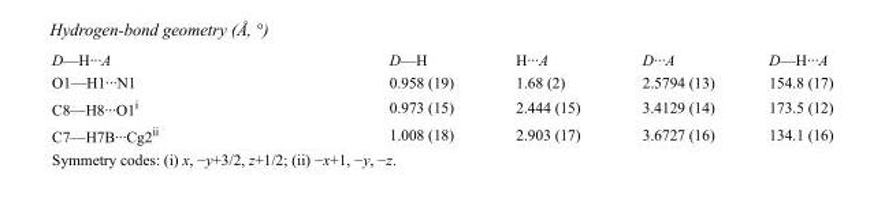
<table><tbody><tr><td>D—H···A</td><td>D—H</td><td>H···A</td><td>D···A</td><td>D—H···A</td></tr><tr><td>O1—H1···N1</td><td>0.958 (19)</td><td>1.68 (2)</td><td>2.5794 (13)</td><td>154.8 (17)</td></tr><tr><td>C8—H8···O1<sup>i</sup></td><td>0.973 (15)</td><td>2.444 (15)</td><td>3.4129 (14)</td><td>173.5 (12)</td></tr><tr><td>C7—H7B···Cg2<sup>ii</sup></td><td>1.008 (18)</td><td>2.903 (17)</td><td>3.6727 (16)</td><td>134.1 (16)</td></tr></tbody></table>